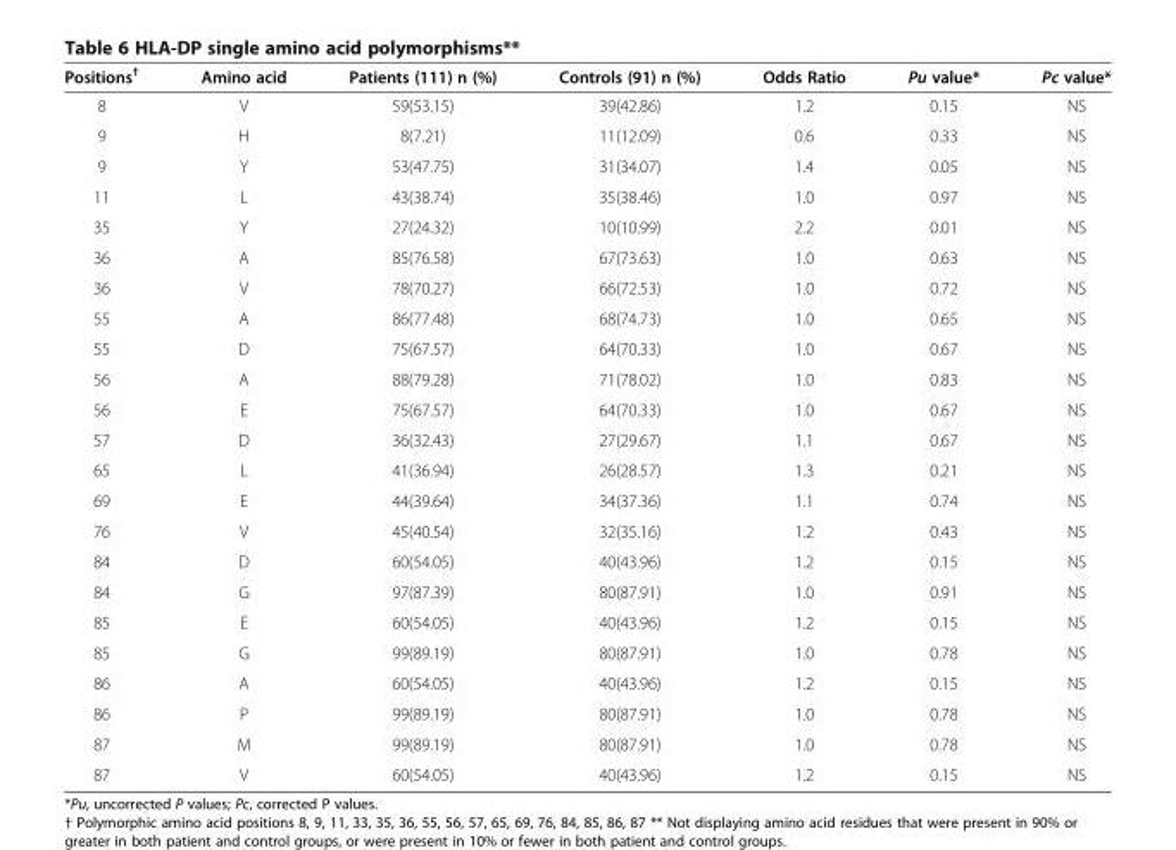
<table><thead><tr><td>Positions<sup>†</sup></td><td>Amino acid</td><td>Patients (111) n (%)</td><td>Controls (91) n (%)</td><td>Odds Ratio</td><td>Pu value*</td><td>Pc value*</td></tr></thead><tbody><tr><td>8</td><td>V</td><td>59(53.15)</td><td>39(42.86)</td><td>1.2</td><td>0.15</td><td>NS</td></tr><tr><td>9</td><td>H</td><td>8(7.21)</td><td>11(12.09)</td><td>0.6</td><td>0.33</td><td>NS</td></tr><tr><td>9</td><td>Y</td><td>53(47.75)</td><td>31(34.07)</td><td>1.4</td><td>0.05</td><td>NS</td></tr><tr><td>11</td><td>L</td><td>43(38.74)</td><td>35(38.46)</td><td>1.0</td><td>0.97</td><td>NS</td></tr><tr><td>35</td><td>Y</td><td>27(24.32)</td><td>10(10.99)</td><td>2.2</td><td>0.01</td><td>NS</td></tr><tr><td>36</td><td>A</td><td>85(76.58)</td><td>67(73.63)</td><td>1.0</td><td>0.63</td><td>NS</td></tr><tr><td>36</td><td>V</td><td>78(70.27)</td><td>66(72.53)</td><td>1.0</td><td>0.72</td><td>NS</td></tr><tr><td>55</td><td>A</td><td>86(77.48)</td><td>68(74.73)</td><td>1.0</td><td>0.65</td><td>NS</td></tr><tr><td>55</td><td>D</td><td>75(67.57)</td><td>64(70.33)</td><td>1.0</td><td>0.67</td><td>NS</td></tr><tr><td>56</td><td>A</td><td>88(79.28)</td><td>71(78.02)</td><td>1.0</td><td>0.83</td><td>NS</td></tr><tr><td>56</td><td>E</td><td>75(67.57)</td><td>64(70.33)</td><td>1.0</td><td>0.67</td><td>NS</td></tr><tr><td>57</td><td>D</td><td>36(32.43)</td><td>27(29.67)</td><td>1.1</td><td>0.67</td><td>NS</td></tr><tr><td>65</td><td>L</td><td>41(36.94)</td><td>26(28.57)</td><td>1.3</td><td>0.21</td><td>NS</td></tr><tr><td>69</td><td>E</td><td>44(39.64)</td><td>34(37.36)</td><td>1.1</td><td>0.74</td><td>NS</td></tr><tr><td>76</td><td>V</td><td>45(40.54)</td><td>32(35.16)</td><td>1.2</td><td>0.43</td><td>NS</td></tr><tr><td>84</td><td>D</td><td>60(54.05)</td><td>40(43.96)</td><td>1.2</td><td>0.15</td><td>NS</td></tr><tr><td>84</td><td>G</td><td>97(87.39)</td><td>80(87.91)</td><td>1.0</td><td>0.91</td><td>NS</td></tr><tr><td>85</td><td>E</td><td>60(54.05)</td><td>40(43.96)</td><td>1.2</td><td>0.15</td><td>NS</td></tr><tr><td>85</td><td>G</td><td>99(89.19)</td><td>80(87.91)</td><td>1.0</td><td>0.78</td><td>NS</td></tr><tr><td>86</td><td>A</td><td>60(54.05)</td><td>40(43.96)</td><td>1.2</td><td>0.15</td><td>NS</td></tr><tr><td>86</td><td>P</td><td>99(89.19)</td><td>80(87.91)</td><td>1.0</td><td>0.78</td><td>NS</td></tr><tr><td>87</td><td>M</td><td>99(89.19)</td><td>80(87.91)</td><td>1.0</td><td>0.78</td><td>NS</td></tr><tr><td>87</td><td>V</td><td>60(54.05)</td><td>40(43.96)</td><td>1.2</td><td>0.15</td><td>NS</td></tr></tbody></table>